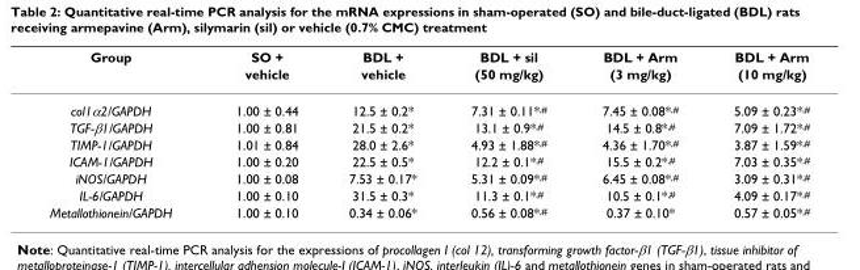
<table><thead><tr><td rowspan="2">Group</td><td rowspan="2">SO + vehicle</td><td rowspan="2">BDL + vehicle</td><td rowspan="2">BDL + sil (50 mg/kg)</td><td rowspan="2">BDL + Arm (3 mg/kg)</td><td rowspan="2">BDL + Arm (10 mg/kg)</td></tr><tr></tr></thead><tbody><tr><td>col1α2/GAPDH</td><td>1.00 ± 0.44</td><td>12.5 ± 0.2*</td><td>7.31 ± 0.11*<sup>,#</sup></td><td>7.45 ± 0.08*<sup>,#</sup></td><td>5.09 ± 0.23*<sup>,#</sup></td></tr><tr><td>TGF-β1/GAPDH</td><td>1.00 ± 0.81</td><td>21.5 ± 0.2*</td><td>13.1 ± 0.9*<sup>,#</sup></td><td>14.5 ± 0.8*<sup>,#</sup></td><td>7.09 ± 1.72*<sup>,#</sup></td></tr><tr><td>TIMP-1/GAPDH</td><td>1.01 ± 0.84</td><td>28.0 ± 2.6*</td><td>4.93 ± 1.88*<sup>,#</sup></td><td>4.36 ± 1.70*<sup>,#</sup></td><td>3.87 ± 1.59*<sup>,#</sup></td></tr><tr><td>ICAM-1/GAPDH</td><td>1.00 ± 0.20</td><td>22.5 ± 0.5*</td><td>12.2 ± 0.1*<sup>,#</sup></td><td>15.5 ± 0.2*<sup>,#</sup></td><td>7.03 ± 0.35*<sup>,#</sup></td></tr><tr><td>iNOS/GAPDH</td><td>1.00 ± 0.08</td><td>7.53 ± 0.17*</td><td>5.31 ± 0.09*<sup>,#</sup></td><td>6.45 ± 0.08*<sup>,#</sup></td><td>3.09 ± 0.31*<sup>,#</sup></td></tr><tr><td>IL-6/GAPDH</td><td>1.00 ± 0.10</td><td>31.5 ± 0.3*</td><td>11.3 ± 0.1*<sup>,#</sup></td><td>10.5 ± 0.1*<sup>,#</sup></td><td>4.09 ± 0.17*<sup>,#</sup></td></tr><tr><td>Metallothionein/GAPDH</td><td>1.00 ± 0.10</td><td>0.34 ± 0.06*</td><td>0.56 ± 0.08*<sup>,#</sup></td><td>0.37 ± 0.10*</td><td>0.57 ± 0.05*<sup>,#</sup></td></tr></tbody></table>